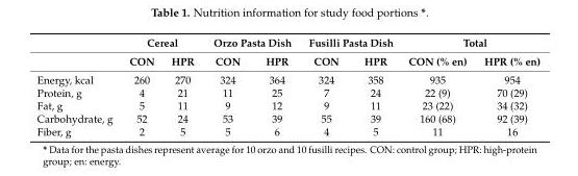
<table><thead><tr><td rowspan="2"></td><td colspan="2">Cereal</td><td colspan="2">Orzo Pasta Dish</td><td colspan="2">Fusilli Pasta Dish</td><td colspan="2">Total</td></tr><tr><td>CON</td><td>HPR</td><td>CON</td><td>HPR</td><td>CON</td><td>HPR</td><td>CON (% en)</td><td>HPR (% en)</td></tr></thead><tbody><tr><td>Energy, kcal</td><td>260</td><td>270</td><td>324</td><td>364</td><td>324</td><td>358</td><td>935</td><td>954</td></tr><tr><td>Protein, g</td><td>4</td><td>21</td><td>11</td><td>25</td><td>7</td><td>24</td><td>22 (9)</td><td>70 (29)</td></tr><tr><td>Fat, g</td><td>5</td><td>11</td><td>9</td><td>12</td><td>9</td><td>11</td><td>23 (22)</td><td>34 (32)</td></tr><tr><td>Carbohydrate, g</td><td>52</td><td>24</td><td>53</td><td>39</td><td>55</td><td>39</td><td>160 (68)</td><td>92 (39)</td></tr><tr><td>Fiber, g</td><td>2</td><td>5</td><td>5</td><td>6</td><td>4</td><td>5</td><td>11</td><td>16</td></tr></tbody></table>